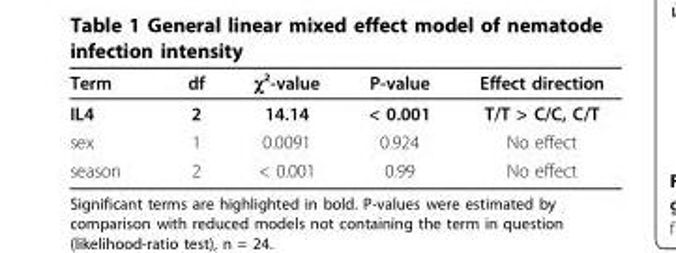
<table><thead><tr><td>Term</td><td>df</td><td>χ²-value</td><td>P-value</td><td>Effect direction</td></tr></thead><tbody><tr><td>IL4</td><td>2</td><td>14.14</td><td>&lt; 0.001</td><td>T/T &gt; C/C, C/T</td></tr><tr><td>sex</td><td>1</td><td>0.0091</td><td>0.924</td><td>No effect</td></tr><tr><td>season</td><td>2</td><td>&lt; 0.001</td><td>0.99</td><td>No effect</td></tr></tbody></table>